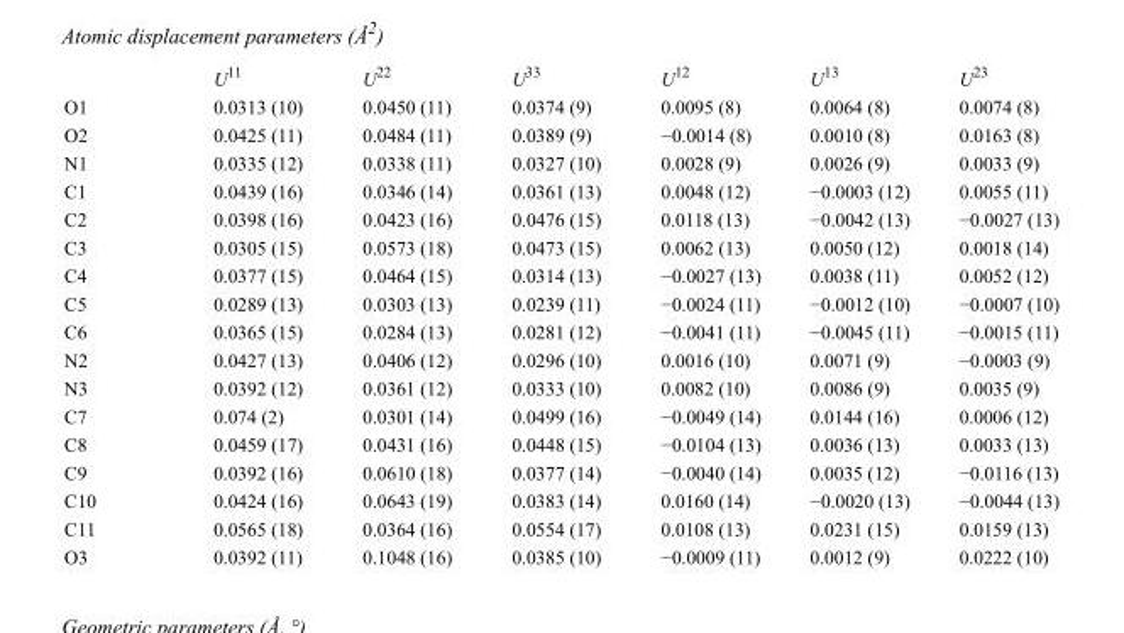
<table><thead><tr><td></td><td>U<sup>11</sup></td><td>U<sup>22</sup></td><td>U<sup>33</sup></td><td>U<sup>12</sup></td><td>U<sup>13</sup></td><td>U<sup>23</sup></td></tr></thead><tbody><tr><td>O1</td><td>0.0313 (10)</td><td>0.0450 (11)</td><td>0.0374 (9)</td><td>0.0095 (8)</td><td>0.0064 (8)</td><td>0.0074 (8)</td></tr><tr><td>O2</td><td>0.0425 (11)</td><td>0.0484 (11)</td><td>0.0389 (9)</td><td>−0.0014 (8)</td><td>0.0010 (8)</td><td>0.0163 (8)</td></tr><tr><td>N1</td><td>0.0335 (12)</td><td>0.0338 (11)</td><td>0.0327 (10)</td><td>0.0028 (9)</td><td>0.0026 (9)</td><td>0.0033 (9)</td></tr><tr><td>C1</td><td>0.0439 (16)</td><td>0.0346 (14)</td><td>0.0361 (13)</td><td>0.0048 (12)</td><td>−0.0003 (12)</td><td>0.0055 (11)</td></tr><tr><td>C2</td><td>0.0398 (16)</td><td>0.0423 (16)</td><td>0.0476 (15)</td><td>0.0118 (13)</td><td>−0.0042 (13)</td><td>−0.0027 (13)</td></tr><tr><td>C3</td><td>0.0305 (15)</td><td>0.0573 (18)</td><td>0.0473 (15)</td><td>0.0062 (13)</td><td>0.0050 (12)</td><td>0.0018 (14)</td></tr><tr><td>C4</td><td>0.0377 (15)</td><td>0.0464 (15)</td><td>0.0314 (13)</td><td>−0.0027 (13)</td><td>0.0038 (11)</td><td>0.0052 (12)</td></tr><tr><td>C5</td><td>0.0289 (13)</td><td>0.0303 (13)</td><td>0.0239 (11)</td><td>−0.0024 (11)</td><td>−0.0012 (10)</td><td>−0.0007 (10)</td></tr><tr><td>C6</td><td>0.0365 (15)</td><td>0.0284 (13)</td><td>0.0281 (12)</td><td>−0.0041 (11)</td><td>−0.0045 (11)</td><td>−0.0015 (11)</td></tr><tr><td>N2</td><td>0.0427 (13)</td><td>0.0406 (12)</td><td>0.0296 (10)</td><td>0.0016 (10)</td><td>0.0071 (9)</td><td>−0.0003 (9)</td></tr><tr><td>N3</td><td>0.0392 (12)</td><td>0.0361 (12)</td><td>0.0333 (10)</td><td>0.0082 (10)</td><td>0.0086 (9)</td><td>0.0035 (9)</td></tr><tr><td>C7</td><td>0.074 (2)</td><td>0.0301 (14)</td><td>0.0499 (16)</td><td>−0.0049 (14)</td><td>0.0144 (16)</td><td>0.0006 (12)</td></tr><tr><td>C8</td><td>0.0459 (17)</td><td>0.0431 (16)</td><td>0.0448 (15)</td><td>−0.0104 (13)</td><td>0.0036 (13)</td><td>0.0033 (13)</td></tr><tr><td>C9</td><td>0.0392 (16)</td><td>0.0610 (18)</td><td>0.0377 (14)</td><td>−0.0040 (14)</td><td>0.0035 (12)</td><td>−0.0116 (13)</td></tr><tr><td>C10</td><td>0.0424 (16)</td><td>0.0643 (19)</td><td>0.0383 (14)</td><td>0.0160 (14)</td><td>−0.0020 (13)</td><td>−0.0044 (13)</td></tr><tr><td>C11</td><td>0.0565 (18)</td><td>0.0364 (16)</td><td>0.0554 (17)</td><td>0.0108 (13)</td><td>0.0231 (15)</td><td>0.0159 (13)</td></tr><tr><td>O3</td><td>0.0392 (11)</td><td>0.1048 (16)</td><td>0.0385 (10)</td><td>−0.0009 (11)</td><td>0.0012 (9)</td><td>0.0222 (10)</td></tr></tbody></table>